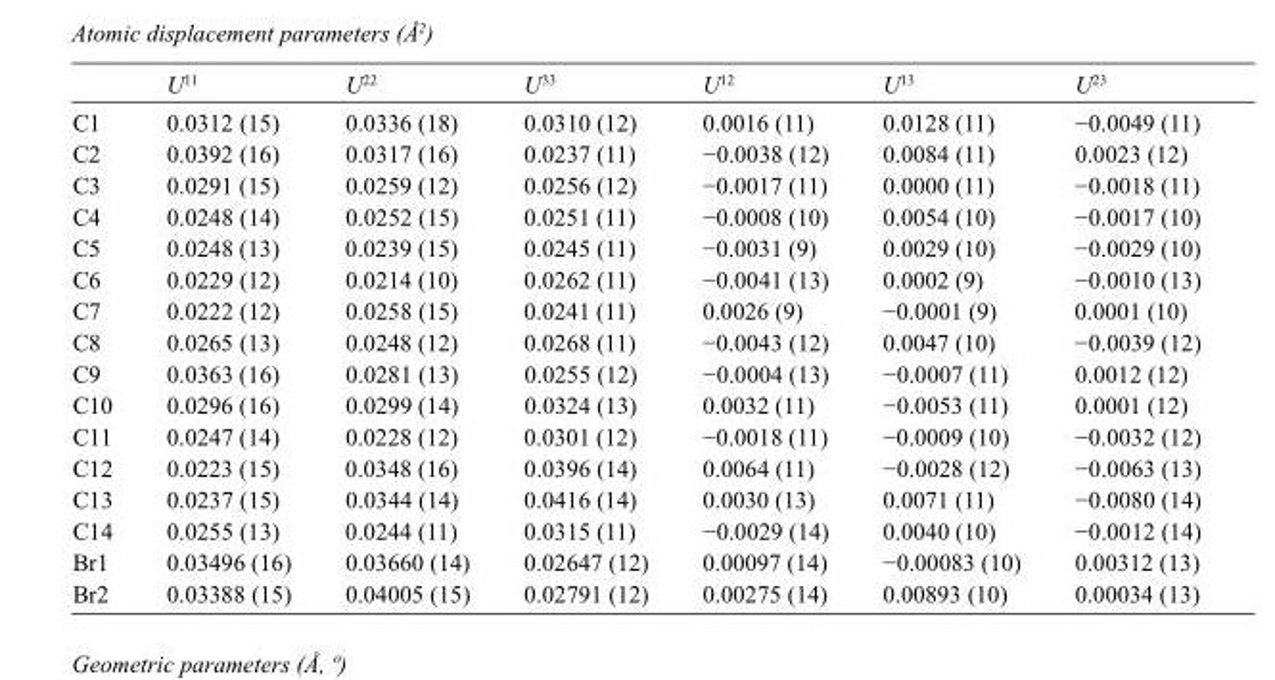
<table><thead><tr><td></td><td>U<sup>11</sup></td><td>U<sup>22</sup></td><td>U<sup>33</sup></td><td>U<sup>12</sup></td><td>U<sup>13</sup></td><td>U<sup>23</sup></td></tr></thead><tbody><tr><td>C1</td><td>0.0312 (15)</td><td>0.0336 (18)</td><td>0.0310 (12)</td><td>0.0016 (11)</td><td>0.0128 (11)</td><td>−0.0049 (11)</td></tr><tr><td>C2</td><td>0.0392 (16)</td><td>0.0317 (16)</td><td>0.0237 (11)</td><td>−0.0038 (12)</td><td>0.0084 (11)</td><td>0.0023 (12)</td></tr><tr><td>C3</td><td>0.0291 (15)</td><td>0.0259 (12)</td><td>0.0256 (12)</td><td>−0.0017 (11)</td><td>0.0000 (11)</td><td>−0.0018 (11)</td></tr><tr><td>C4</td><td>0.0248 (14)</td><td>0.0252 (15)</td><td>0.0251 (11)</td><td>−0.0008 (10)</td><td>0.0054 (10)</td><td>−0.0017 (10)</td></tr><tr><td>C5</td><td>0.0248 (13)</td><td>0.0239 (15)</td><td>0.0245 (11)</td><td>−0.0031 (9)</td><td>0.0029 (10)</td><td>−0.0029 (10)</td></tr><tr><td>C6</td><td>0.0229 (12)</td><td>0.0214 (10)</td><td>0.0262 (11)</td><td>−0.0041 (13)</td><td>0.0002 (9)</td><td>−0.0010 (13)</td></tr><tr><td>C7</td><td>0.0222 (12)</td><td>0.0258 (15)</td><td>0.0241 (11)</td><td>0.0026 (9)</td><td>−0.0001 (9)</td><td>0.0001 (10)</td></tr><tr><td>C8</td><td>0.0265 (13)</td><td>0.0248 (12)</td><td>0.0268 (11)</td><td>−0.0043 (12)</td><td>0.0047 (10)</td><td>−0.0039 (12)</td></tr><tr><td>C9</td><td>0.0363 (16)</td><td>0.0281 (13)</td><td>0.0255 (12)</td><td>−0.0004 (13)</td><td>−0.0007 (11)</td><td>0.0012 (12)</td></tr><tr><td>C10</td><td>0.0296 (16)</td><td>0.0299 (14)</td><td>0.0324 (13)</td><td>0.0032 (11)</td><td>−0.0053 (11)</td><td>0.0001 (12)</td></tr><tr><td>C11</td><td>0.0247 (14)</td><td>0.0228 (12)</td><td>0.0301 (12)</td><td>−0.0018 (11)</td><td>−0.0009 (10)</td><td>−0.0032 (12)</td></tr><tr><td>C12</td><td>0.0223 (15)</td><td>0.0348 (16)</td><td>0.0396 (14)</td><td>0.0064 (11)</td><td>−0.0028 (12)</td><td>−0.0063 (13)</td></tr><tr><td>C13</td><td>0.0237 (15)</td><td>0.0344 (14)</td><td>0.0416 (14)</td><td>0.0030 (13)</td><td>0.0071 (11)</td><td>−0.0080 (14)</td></tr><tr><td>C14</td><td>0.0255 (13)</td><td>0.0244 (11)</td><td>0.0315 (11)</td><td>−0.0029 (14)</td><td>0.0040 (10)</td><td>−0.0012 (14)</td></tr><tr><td>Br1</td><td>0.03496 (16)</td><td>0.03660 (14)</td><td>0.02647 (12)</td><td>0.00097 (14)</td><td>−0.00083 (10)</td><td>0.00312 (13)</td></tr><tr><td>Br2</td><td>0.03388 (15)</td><td>0.04005 (15)</td><td>0.02791 (12)</td><td>0.00275 (14)</td><td>0.00893 (10)</td><td>0.00034 (13)</td></tr></tbody></table>